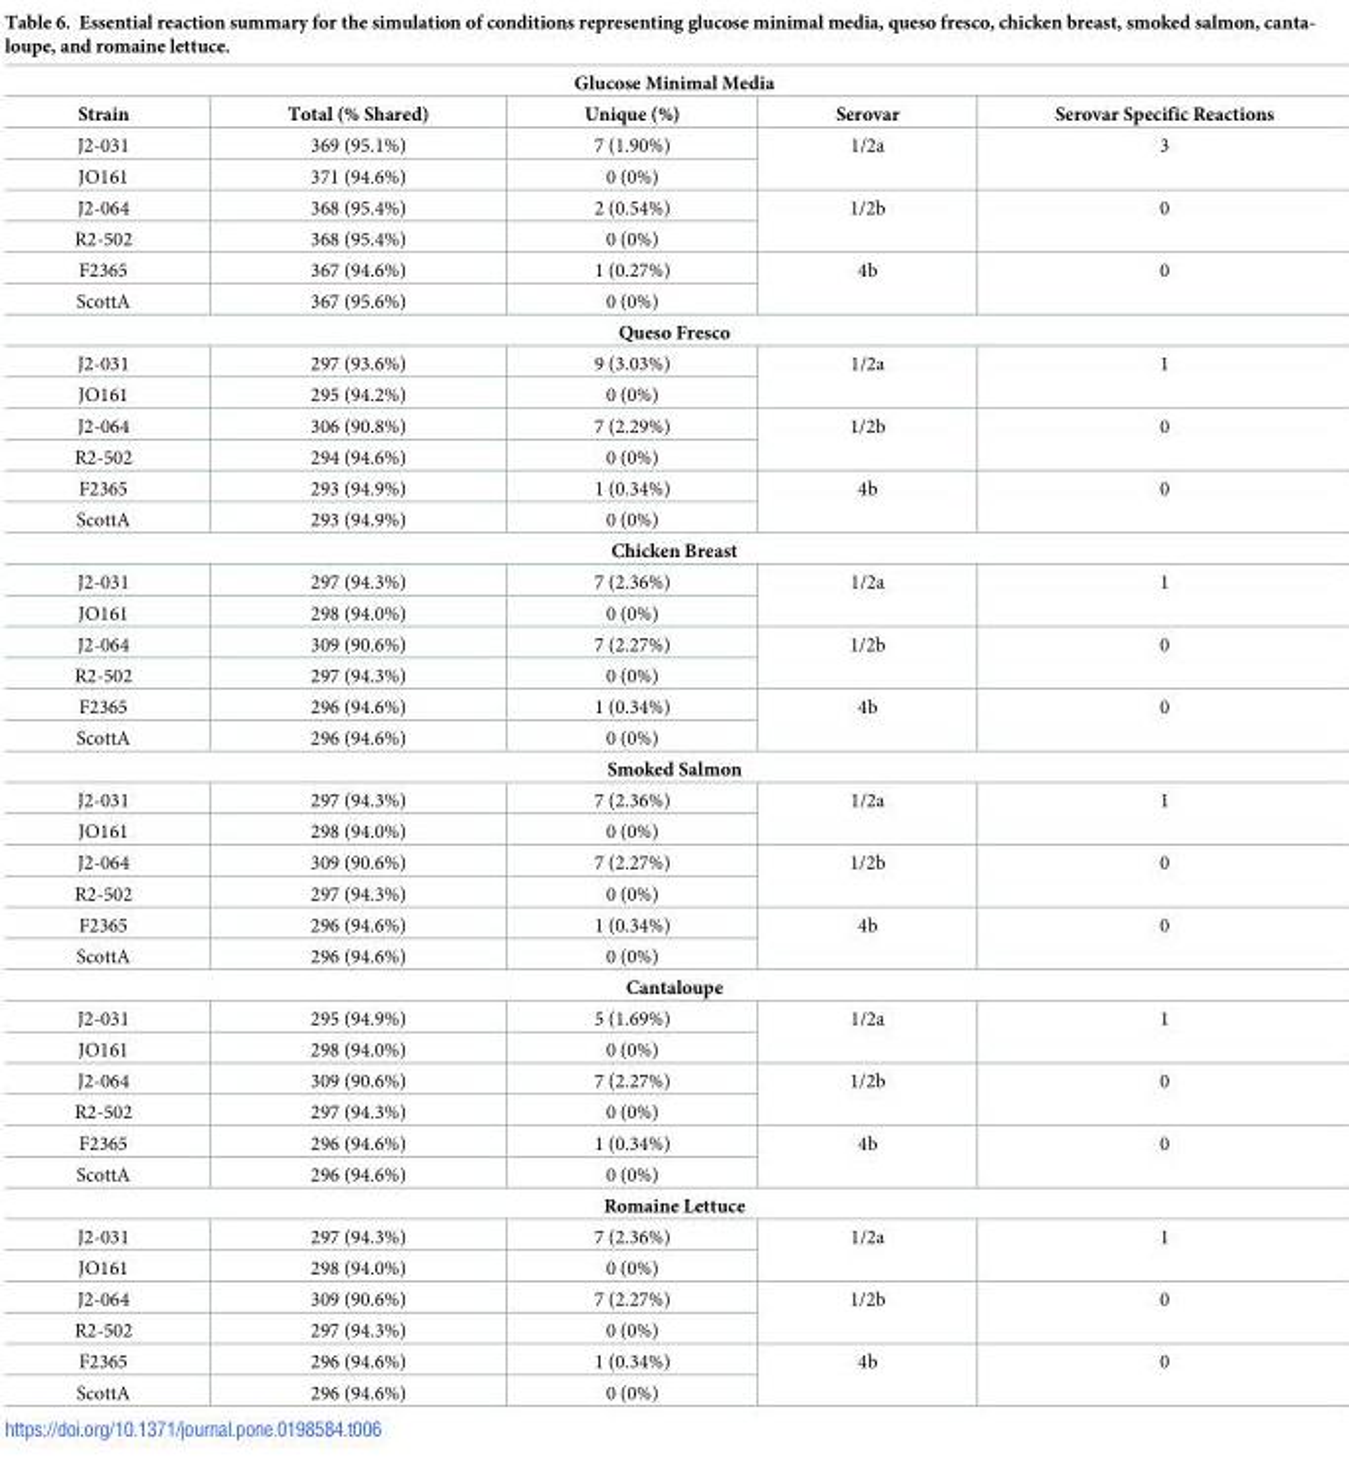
<table><thead><tr><td colspan="5">Glucose Minimal Media</td></tr><tr><td>Strain</td><td>Total (% Shared)</td><td>Unique (%)</td><td>Serovar</td><td>Serovar Specific Reactions</td></tr></thead><tbody><tr><td>J2-031</td><td>369 (95.1%)</td><td>7 (1.90%)</td><td rowspan="2">1/2a</td><td rowspan="2">3</td></tr><tr><td>JO161</td><td>371 (94.6%)</td><td>0 (0%)</td></tr><tr><td>J2-064</td><td>368 (95.4%)</td><td>2 (0.54%)</td><td rowspan="2">1/2b</td><td rowspan="2">0</td></tr><tr><td>R2-502</td><td>368 (95.4%)</td><td>0 (0%)</td></tr><tr><td>F2365</td><td>367 (94.6%)</td><td>1 (0.27%)</td><td rowspan="2">4b</td><td rowspan="2">0</td></tr><tr><td>ScottA</td><td>367 (95.6%)</td><td>0 (0%)</td></tr><tr><td colspan="5">Queso Fresco</td></tr><tr><td>J2-031</td><td>297 (93.6%)</td><td>9 (3.03%)</td><td rowspan="2">1/2a</td><td rowspan="2">1</td></tr><tr><td>JO161</td><td>295 (94.2%)</td><td>0 (0%)</td></tr><tr><td>J2-064</td><td>306 (90.8%)</td><td>7 (2.29%)</td><td rowspan="2">1/2b</td><td rowspan="2">0</td></tr><tr><td>R2-502</td><td>294 (94.6%)</td><td>0 (0%)</td></tr><tr><td>F2365</td><td>293 (94.9%)</td><td>1 (0.34%)</td><td rowspan="2">4b</td><td rowspan="2">0</td></tr><tr><td>ScottA</td><td>293 (94.9%)</td><td>0 (0%)</td></tr><tr><td colspan="5">Chicken Breast</td></tr><tr><td>J2-031</td><td>297 (94.3%)</td><td>7 (2.36%)</td><td rowspan="2">1/2a</td><td rowspan="2">1</td></tr><tr><td>JO161</td><td>298 (94.0%)</td><td>0 (0%)</td></tr><tr><td>J2-064</td><td>309 (90.6%)</td><td>7 (2.27%)</td><td rowspan="2">1/2b</td><td rowspan="2">0</td></tr><tr><td>R2-502</td><td>297 (94.3%)</td><td>0 (0%)</td></tr><tr><td>F2365</td><td>296 (94.6%)</td><td>1 (0.34%)</td><td rowspan="2">4b</td><td rowspan="2">0</td></tr><tr><td>ScottA</td><td>296 (94.6%)</td><td>0 (0%)</td></tr><tr><td colspan="5">Smoked Salmon</td></tr><tr><td>J2-031</td><td>297 (94.3%)</td><td>7 (2.36%)</td><td rowspan="2">1/2a</td><td rowspan="2">1</td></tr><tr><td>JO161</td><td>298 (94.0%)</td><td>0 (0%)</td></tr><tr><td>J2-064</td><td>309 (90.6%)</td><td>7 (2.27%)</td><td rowspan="2">1/2b</td><td rowspan="2">0</td></tr><tr><td>R2-502</td><td>297 (94.3%)</td><td>0 (0%)</td></tr><tr><td>F2365</td><td>296 (94.6%)</td><td>1 (0.34%)</td><td rowspan="2">4b</td><td rowspan="2">0</td></tr><tr><td>ScottA</td><td>296 (94.6%)</td><td>0 (0%)</td></tr><tr><td colspan="5">Cantaloupe</td></tr><tr><td>J2-031</td><td>295 (94.9%)</td><td>5 (1.69%)</td><td rowspan="2">1/2a</td><td rowspan="2">1</td></tr><tr><td>JO161</td><td>298 (94.0%)</td><td>0 (0%)</td></tr><tr><td>J2-064</td><td>309 (90.6%)</td><td>7 (2.27%)</td><td rowspan="2">1/2b</td><td rowspan="2">0</td></tr><tr><td>R2-502</td><td>297 (94.3%)</td><td>0 (0%)</td></tr><tr><td>F2365</td><td>296 (94.6%)</td><td>1 (0.34%)</td><td rowspan="2">4b</td><td rowspan="2">0</td></tr><tr><td>ScottA</td><td>296 (94.6%)</td><td>0 (0%)</td></tr><tr><td colspan="5">Romaine Lettuce</td></tr><tr><td>J2-031</td><td>297 (94.3%)</td><td>7 (2.36%)</td><td rowspan="2">1/2a</td><td rowspan="2">1</td></tr><tr><td>JO161</td><td>298 (94.0%)</td><td>0 (0%)</td></tr><tr><td>J2-064</td><td>309 (90.6%)</td><td>7 (2.27%)</td><td rowspan="2">1/2b</td><td rowspan="2">0</td></tr><tr><td>R2-502</td><td>297 (94.3%)</td><td>0 (0%)</td></tr><tr><td>F2365</td><td>296 (94.6%)</td><td>1 (0.34%)</td><td rowspan="2">4b</td><td rowspan="2">0</td></tr><tr><td>ScottA</td><td>296 (94.6%)</td><td>0 (0%)</td></tr></tbody></table>